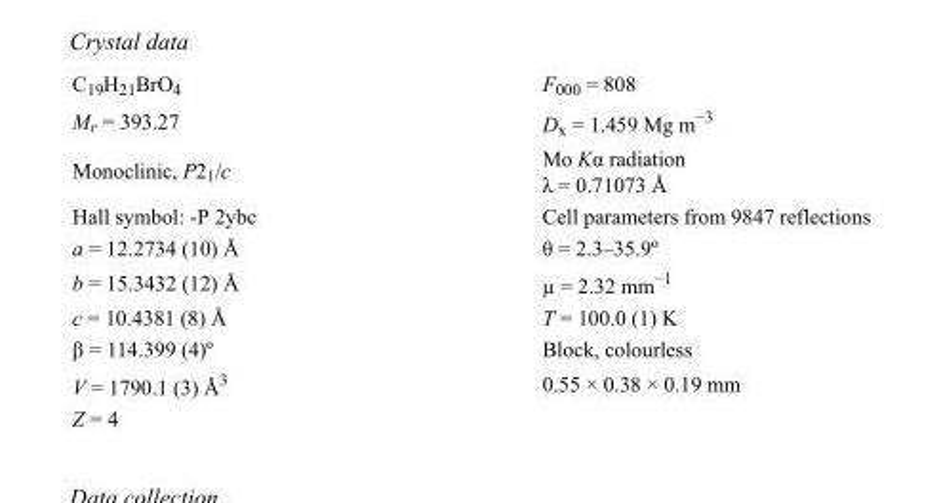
<table><tbody><tr><td>C<sub>19</sub>H<sub>21</sub>BrO<sub>4</sub></td><td>F000 = 808</td></tr><tr><td>M<sub>r</sub> = 393.27</td><td>D<sub>x</sub> = 1.459 Mg m<sup>−3</sup></td></tr><tr><td>Monoclinic, P2<sub>1</sub>/c</td><td>Mo Kα radiation λ = 0.71073 Å</td></tr><tr><td>Hall symbol: -P 2ybc</td><td>Cell parameters from 9847 reflections</td></tr><tr><td>a = 12.2734 (10) Å</td><td>θ = 2.3–35.9º</td></tr><tr><td>b = 15.3432 (12) Å</td><td>µ = 2.32 mm<sup>−1</sup></td></tr><tr><td>c = 10.4381 (8) Å</td><td>T = 100.0 (1) K</td></tr><tr><td>β = 114.399 (4)º</td><td>Block, colourless</td></tr><tr><td>V = 1790.1 (3) Å<sup>3</sup></td><td>0.55 × 0.38 × 0.19 mm</td></tr><tr><td>Z = 4</td><td></td></tr></tbody></table>